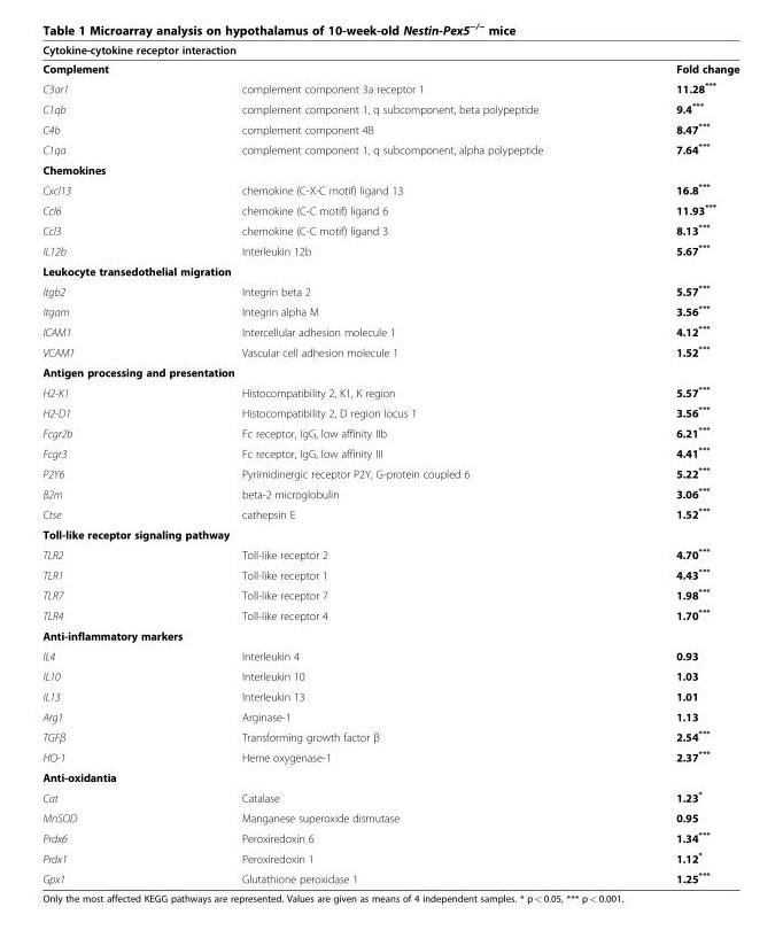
<table><thead><tr><td colspan="3">Cytokine-cytokine receptor interaction</td></tr><tr><td>Complement</td><td></td><td>Fold change</td></tr></thead><tbody><tr><td>C3ar1</td><td>complement component 3a receptor 1</td><td>11.28***</td></tr><tr><td>C1qb</td><td>complement component 1, q subcomponent, beta polypeptide</td><td>9.4***</td></tr><tr><td>C4b</td><td>complement component 4B</td><td>8.47***</td></tr><tr><td>C1qa</td><td>complement component 1, q subcomponent, alpha polypeptide</td><td>7.64***</td></tr><tr><td colspan="3">Chemokines</td></tr><tr><td>Cxcl13</td><td>chemokine (C-X-C motif) ligand 13</td><td>16.8***</td></tr><tr><td>Ccl6</td><td>chemokine (C-C motif) ligand 6</td><td>11.93***</td></tr><tr><td>Ccl3</td><td>chemokine (C-C motif) ligand 3</td><td>8.13***</td></tr><tr><td>IL12b</td><td>Interleukin 12b</td><td>5.67***</td></tr><tr><td colspan="3">Leukocyte transedothelial migration</td></tr><tr><td>Itgb2</td><td>Integrin beta 2</td><td>5.57***</td></tr><tr><td>Itgam</td><td>Integrin alpha M</td><td>3.56***</td></tr><tr><td>ICAM1</td><td>Intercellular adhesion molecule 1</td><td>4.12***</td></tr><tr><td>VCAM1</td><td>Vascular cell adhesion molecule 1</td><td>1.52***</td></tr><tr><td colspan="3">Antigen processing and presentation</td></tr><tr><td>H2-K1</td><td>Histocompatibility 2, K1, K region</td><td>5.57***</td></tr><tr><td>H2-D1</td><td>Histocompatibility 2, D region locus 1</td><td>3.56***</td></tr><tr><td>Fcgr2b</td><td>Fc receptor, IgG, low affinity IIb</td><td>6.21***</td></tr><tr><td>Fcgr3</td><td>Fc receptor, IgG, low affinity III</td><td>4.41***</td></tr><tr><td>P2Y6</td><td>Pyrimidinergic receptor P2Y, G-protein coupled 6</td><td>5.22***</td></tr><tr><td>B2m</td><td>beta-2 microglobulin</td><td>3.06***</td></tr><tr><td>Ctse</td><td>cathepsin E</td><td>1.52***</td></tr><tr><td colspan="3">Toll-like receptor signaling pathway</td></tr><tr><td>TLR2</td><td>Toll-like receptor 2</td><td>4.70***</td></tr><tr><td>TLR1</td><td>Toll-like receptor 1</td><td>4.43***</td></tr><tr><td>TLR7</td><td>Toll-like receptor 7</td><td>1.98***</td></tr><tr><td>TLR4</td><td>Toll-like receptor 4</td><td>1.70***</td></tr><tr><td colspan="3">Anti-inflammatory markers</td></tr><tr><td>IL4</td><td>Interleukin 4</td><td>0.93</td></tr><tr><td>IL10</td><td>Interleukin 10</td><td>1.03</td></tr><tr><td>IL13</td><td>Interleukin 13</td><td>1.01</td></tr><tr><td>Arg1</td><td>Arginase-1</td><td>1.13</td></tr><tr><td>TGFβ</td><td>Transforming growth factor β</td><td>2.54***</td></tr><tr><td>HO-1</td><td>Heme oxygenase-1</td><td>2.37***</td></tr><tr><td colspan="3">Anti-oxidantia</td></tr><tr><td>Cat</td><td>Catalase</td><td>1.23*</td></tr><tr><td>MnSOD</td><td>Manganese superoxide dismutase</td><td>0.95</td></tr><tr><td>Prdx6</td><td>Peroxiredoxin 6</td><td>1.34***</td></tr><tr><td>Prdx1</td><td>Peroxiredoxin 1</td><td>1.12*</td></tr><tr><td>Gpx1</td><td>Glutathione peroxidase 1</td><td>1.25***</td></tr></tbody></table>